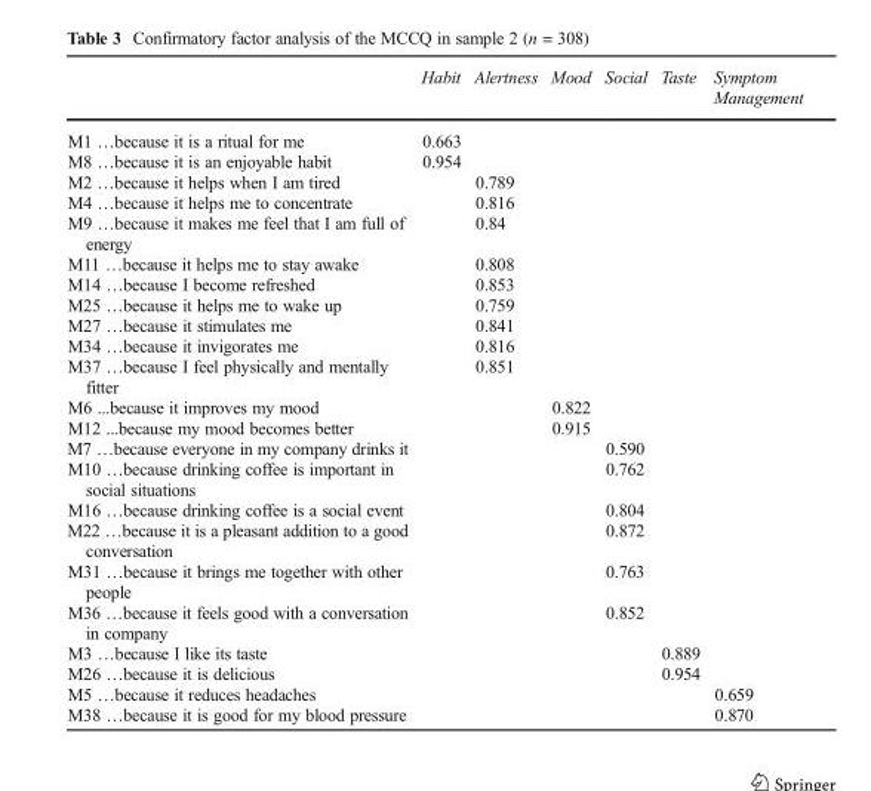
<table><thead><tr><td></td><td>Habit</td><td>Alertness</td><td>Mood</td><td>Social</td><td>Taste</td><td>Symptom Management</td></tr></thead><tbody><tr><td>M1 …because it is a ritual for me</td><td>0.663</td><td></td><td></td><td></td><td></td><td></td></tr><tr><td>M8 …because it is an enjoyable habit</td><td>0.954</td><td></td><td></td><td></td><td></td><td></td></tr><tr><td>M2 …because it helps when I am tired</td><td></td><td>0.789</td><td></td><td></td><td></td><td></td></tr><tr><td>M4 …because it helps me to concentrate</td><td></td><td>0.816</td><td></td><td></td><td></td><td></td></tr><tr><td>M9 …because it makes me feel that I am full of energy</td><td></td><td>0.84</td><td></td><td></td><td></td><td></td></tr><tr><td>M11 …because it helps me to stay awake</td><td></td><td>0.808</td><td></td><td></td><td></td><td></td></tr><tr><td>M14 …because I become refreshed</td><td></td><td>0.853</td><td></td><td></td><td></td><td></td></tr><tr><td>M25 …because it helps me to wake up</td><td></td><td>0.759</td><td></td><td></td><td></td><td></td></tr><tr><td>M27 …because it stimulates me</td><td></td><td>0.841</td><td></td><td></td><td></td><td></td></tr><tr><td>M34 …because it invigorates me</td><td></td><td>0.816</td><td></td><td></td><td></td><td></td></tr><tr><td>M37 …because I feel physically and mentally fitter</td><td></td><td>0.851</td><td></td><td></td><td></td><td></td></tr><tr><td>M6 ...because it improves my mood</td><td></td><td></td><td>0.822</td><td></td><td></td><td></td></tr><tr><td>M12 ...because my mood becomes better</td><td></td><td></td><td>0.915</td><td></td><td></td><td></td></tr><tr><td>M7 …because everyone in my company drinks it</td><td></td><td></td><td></td><td>0.590</td><td></td><td></td></tr><tr><td>M10 …because drinking coffee is important in social situations</td><td></td><td></td><td></td><td>0.762</td><td></td><td></td></tr><tr><td>M16 …because drinking coffee is a social event</td><td></td><td></td><td></td><td>0.804</td><td></td><td></td></tr><tr><td>M22 …because it is a pleasant addition to a good conversation</td><td></td><td></td><td></td><td>0.872</td><td></td><td></td></tr><tr><td>M31 …because it brings me together with other people</td><td></td><td></td><td></td><td>0.763</td><td></td><td></td></tr><tr><td>M36 …because it feels good with a conversation in company</td><td></td><td></td><td></td><td>0.852</td><td></td><td></td></tr><tr><td>M3 …because I like its taste</td><td></td><td></td><td></td><td></td><td>0.889</td><td></td></tr><tr><td>M26 …because it is delicious</td><td></td><td></td><td></td><td></td><td>0.954</td><td></td></tr><tr><td>M5 …because it reduces headaches</td><td></td><td></td><td></td><td></td><td></td><td>0.659</td></tr><tr><td>M38 …because it is good for my blood pressure</td><td></td><td></td><td></td><td></td><td></td><td>0.870</td></tr></tbody></table>